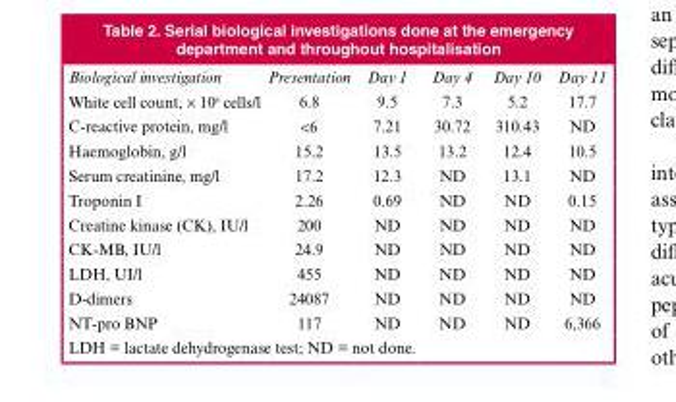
<table><thead><tr><td>Biological investigation</td><td>Presentation</td><td>Day 1</td><td>Day 4</td><td>Day 10</td><td>Day 11</td></tr></thead><tbody><tr><td>White cell count, × 106 cells/l</td><td>6.8</td><td>9.5</td><td>7.3</td><td>5.2</td><td>17.7</td></tr><tr><td>C-reactive protein, mg/l</td><td>&lt;6</td><td>7.21</td><td>30.72</td><td>310.43</td><td>ND</td></tr><tr><td>Haemoglobin, g/l</td><td>15.2</td><td>13.5</td><td>13.2</td><td>12.4</td><td>10.5</td></tr><tr><td>Serum creatinine, mg/l</td><td>17.2</td><td>12.3</td><td>ND</td><td>13.1</td><td>ND</td></tr><tr><td>Troponin I</td><td>2.26</td><td>0.69</td><td>ND</td><td>ND</td><td>0.15</td></tr><tr><td>Creatine kinase (CK), IU/l</td><td>200</td><td>ND</td><td>ND</td><td>ND</td><td>ND</td></tr><tr><td>CK-MB, IU/l</td><td>24.9</td><td>ND</td><td>ND</td><td>ND</td><td>ND</td></tr><tr><td>LDH, UI/l</td><td>455</td><td>ND</td><td>ND</td><td>ND</td><td>ND</td></tr><tr><td>D-dimers</td><td>24087</td><td>ND</td><td>ND</td><td>ND</td><td>ND</td></tr><tr><td>NT-pro BNP</td><td>117</td><td>ND</td><td>ND</td><td>ND</td><td>6,366</td></tr></tbody></table>